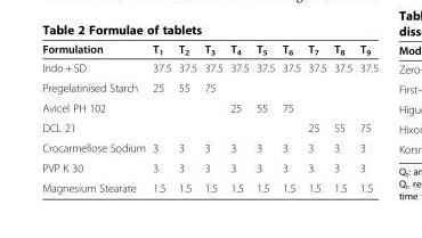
<table><thead><tr><td>Formulation</td><td>T<sub>1</sub></td><td>T<sub>2</sub></td><td>T<sub>3</sub></td><td>T<sub>4</sub></td><td>T<sub>5</sub></td><td>T<sub>6</sub></td><td>T<sub>7</sub></td><td>T<sub>8</sub></td><td>T<sub>9</sub></td></tr></thead><tbody><tr><td>Indo + SD</td><td>37.5</td><td>37.5</td><td>37.5</td><td>37.5</td><td>37.5</td><td>37.5</td><td>37.5</td><td>37.5</td><td>37.5</td></tr><tr><td>Pregelatinised Starch</td><td>25</td><td>55</td><td>75</td><td></td><td></td><td></td><td></td><td></td><td></td></tr><tr><td>Avicel PH 102</td><td></td><td></td><td></td><td>25</td><td>55</td><td>75</td><td></td><td></td><td></td></tr><tr><td>DCL 21</td><td></td><td></td><td></td><td></td><td></td><td></td><td>25</td><td>55</td><td>75</td></tr><tr><td>Crocarmellose Sodium</td><td>3</td><td>3</td><td>3</td><td>3</td><td>3</td><td>3</td><td>3</td><td>3</td><td>3</td></tr><tr><td>PVP K 30</td><td>3</td><td>3</td><td>3</td><td>3</td><td>3</td><td>3</td><td>3</td><td>3</td><td>3</td></tr><tr><td>Magnesium Stearate</td><td>1.5</td><td>1.5</td><td>1.5</td><td>1.5</td><td>1.5</td><td>1.5</td><td>1.5</td><td>1.5</td><td>1.5</td></tr></tbody></table>